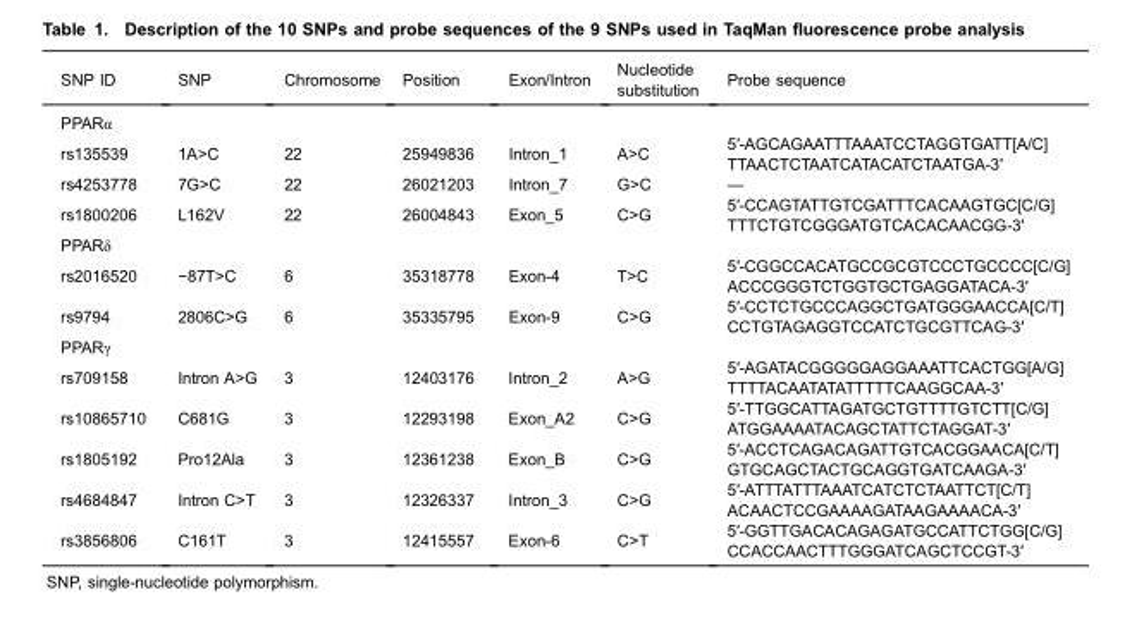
<table><thead><tr><td>SNP ID</td><td>SNP</td><td>Chromosome</td><td>Position</td><td>Exon/Intron</td><td>Nucleotide substitution</td><td>Probe sequence</td></tr></thead><tbody><tr><td colspan="7">PPARα</td></tr><tr><td>rs135539</td><td>1A&gt;C</td><td>22</td><td>25949836</td><td>Intron_1</td><td>A&gt;C</td><td>5′-AGCAGAATTTAAATCCTAGGTGATT[A/C] TTAACTCTAATCATACATCTAATGA-3′</td></tr><tr><td>rs4253778</td><td>7G&gt;C</td><td>22</td><td>26021203</td><td>Intron_7</td><td>G&gt;C</td><td>—</td></tr><tr><td>rs1800206</td><td>L162V</td><td>22</td><td>26004843</td><td>Exon_5</td><td>C&gt;G</td><td>5′-CCAGTATTGTCGATTTCACAAGTGC[C/G] TTTCTGTCGGGATGTCACACAACGG-3′</td></tr><tr><td colspan="7">PPARδ</td></tr><tr><td>rs2016520</td><td>−87T&gt;C</td><td>6</td><td>35318778</td><td>Exon-4</td><td>T&gt;C</td><td>5′-CGGCCACATGCCGCGTCCCTGCCCC[C/G] ACCCGGGTCTGGTGCTGAGGATACA-3′</td></tr><tr><td>rs9794</td><td>2806C&gt;G</td><td>6</td><td>35335795</td><td>Exon-9</td><td>C&gt;G</td><td>5′-CCTCTGCCCAGGCTGATGGGAACCA[C/T] CCTGTAGAGGTCCATCTGCGTTCAG-3′</td></tr><tr><td colspan="7">PPARγ</td></tr><tr><td>rs709158</td><td>Intron A&gt;G</td><td>3</td><td>12403176</td><td>Intron_2</td><td>A&gt;G</td><td>5′-AGATACGGGGGAGGAAATTCACTGG[A/G] TTTTACAATATATTTTTCAAGGCAA-3′</td></tr><tr><td>rs10865710</td><td>C681G</td><td>3</td><td>12293198</td><td>Exon_A2</td><td>C&gt;G</td><td>5′-TTGGCATTAGATGCTGTTTTGTCTT[C/G] ATGGAAAATACAGCTATTCTAGGAT-3′</td></tr><tr><td>rs1805192</td><td>Pro12Ala</td><td>3</td><td>12361238</td><td>Exon_B</td><td>C&gt;G</td><td>5′-ACCTCAGACAGATTGTCACGGAACA[C/T] GTGCAGCTACTGCAGGTGATCAAGA-3′</td></tr><tr><td>rs4684847</td><td>Intron C&gt;T</td><td>3</td><td>12326337</td><td>Intron_3</td><td>C&gt;G</td><td>5′-ATTTATTTAAATCATCTCTAATTCT[C/T] ACAACTCCGAAAAGATAAGAAAACA-3′</td></tr><tr><td>rs3856806</td><td>C161T</td><td>3</td><td>12415557</td><td>Exon-6</td><td>C&gt;T</td><td>5′-GGTTGACACAGAGATGCCATTCTGG[C/G] CCACCAACTTTGGGATCAGCTCCGT-3′</td></tr></tbody></table>